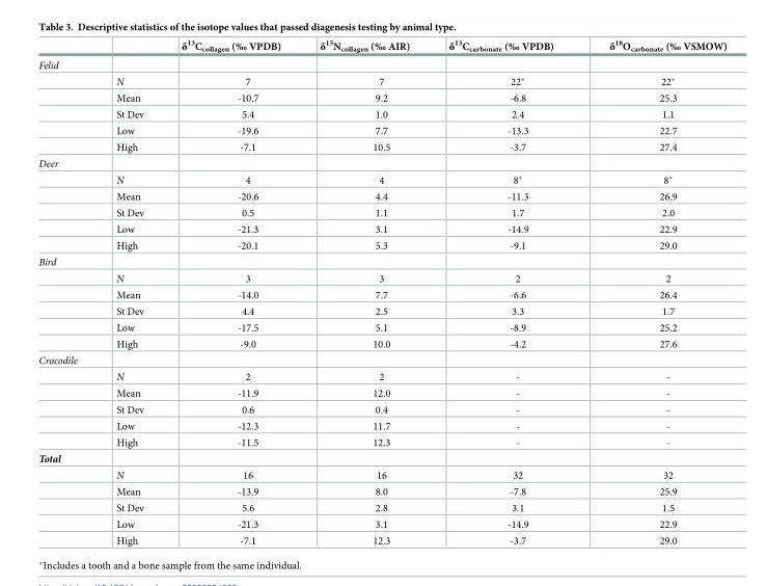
<table><thead><tr><td></td><td></td><td>δ<sup>13</sup>C<sub>collagen</sub> (‰ VPDB)</td><td>δ<sup>15</sup>N<sub>collagen</sub> (‰ AIR)</td><td>δ<sup>13</sup>C<sub>carbonate</sub> (‰ VPDB)</td><td>δ<sup>18</sup>O<sub>carbonate</sub> (‰ VSMOW)</td></tr></thead><tbody><tr><td colspan="6">Felid</td></tr><tr><td></td><td>N</td><td>7</td><td>7</td><td>22*</td><td>22*</td></tr><tr><td></td><td>Mean</td><td>-10.7</td><td>9.2</td><td>-6.8</td><td>25.3</td></tr><tr><td></td><td>St Dev</td><td>5.4</td><td>1.0</td><td>2.4</td><td>1.1</td></tr><tr><td></td><td>Low</td><td>-19.6</td><td>7.7</td><td>-13.3</td><td>22.7</td></tr><tr><td></td><td>High</td><td>-7.1</td><td>10.5</td><td>-3.7</td><td>27.4</td></tr><tr><td colspan="6">Deer</td></tr><tr><td></td><td>N</td><td>4</td><td>4</td><td>8*</td><td>8*</td></tr><tr><td></td><td>Mean</td><td>-20.6</td><td>4.4</td><td>-11.3</td><td>26.9</td></tr><tr><td></td><td>St Dev</td><td>0.5</td><td>1.1</td><td>1.7</td><td>2.0</td></tr><tr><td></td><td>Low</td><td>-21.3</td><td>3.1</td><td>-14.9</td><td>22.9</td></tr><tr><td></td><td>High</td><td>-20.1</td><td>5.3</td><td>-9.1</td><td>29.0</td></tr><tr><td colspan="6">Bird</td></tr><tr><td></td><td>N</td><td>3</td><td>3</td><td>2</td><td>2</td></tr><tr><td></td><td>Mean</td><td>-14.0</td><td>7.7</td><td>-6.6</td><td>26.4</td></tr><tr><td></td><td>St Dev</td><td>4.4</td><td>2.5</td><td>3.3</td><td>1.7</td></tr><tr><td></td><td>Low</td><td>-17.5</td><td>5.1</td><td>-8.9</td><td>25.2</td></tr><tr><td></td><td>High</td><td>-9.0</td><td>10.0</td><td>-4.2</td><td>27.6</td></tr><tr><td colspan="6">Crocodile</td></tr><tr><td></td><td>N</td><td>2</td><td>2</td><td>-</td><td>-</td></tr><tr><td></td><td>Mean</td><td>-11.9</td><td>12.0</td><td>-</td><td>-</td></tr><tr><td></td><td>St Dev</td><td>0.6</td><td>0.4</td><td>-</td><td>-</td></tr><tr><td></td><td>Low</td><td>-12.3</td><td>11.7</td><td>-</td><td>-</td></tr><tr><td></td><td>High</td><td>-11.5</td><td>12.3</td><td>-</td><td>-</td></tr><tr><td colspan="6">Total</td></tr><tr><td></td><td>N</td><td>16</td><td>16</td><td>32</td><td>32</td></tr><tr><td></td><td>Mean</td><td>-13.9</td><td>8.0</td><td>-7.8</td><td>25.9</td></tr><tr><td></td><td>St Dev</td><td>5.6</td><td>2.8</td><td>3.1</td><td>1.5</td></tr><tr><td></td><td>Low</td><td>-21.3</td><td>3.1</td><td>-14.9</td><td>22.9</td></tr><tr><td></td><td>High</td><td>-7.1</td><td>12.3</td><td>-3.7</td><td>29.0</td></tr></tbody></table>